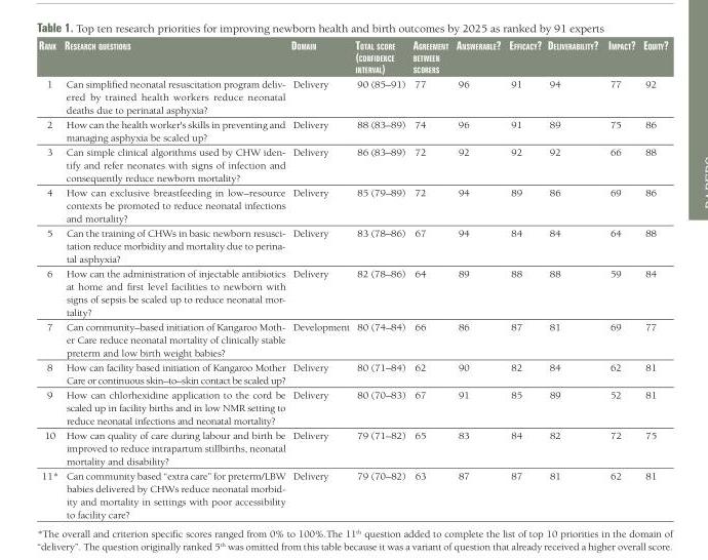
<table><thead><tr><td>Rank</td><td>ReseaRch questions</td><td>Domain</td><td>total scoRe (confiDence inteRval)</td><td>agReement between scoReRs</td><td>answeRable?</td><td>efficacy?</td><td>DeliveRability?</td><td>impact?</td><td>equity?</td></tr></thead><tbody><tr><td>1</td><td>Can simplified neonatal resuscitation program deliv- ered by trained health workers reduce neonatal deaths due to perinatal asphyxia?</td><td>Delivery</td><td>90 (85–91)</td><td>77</td><td>96</td><td>91</td><td>94</td><td>77</td><td>92</td></tr><tr><td>2</td><td>How can the health worker&#x27;s skills in preventing and managing asphyxia be scaled up?</td><td>Delivery</td><td>88 (83–89)</td><td>74</td><td>96</td><td>91</td><td>89</td><td>75</td><td>86</td></tr><tr><td>3</td><td>Can simple clinical algorithms used by CHW iden- tify and refer neonates with signs of infection and consequently reduce newborn mortality?</td><td>Delivery</td><td>86 (83–89)</td><td>72</td><td>92</td><td>92</td><td>92</td><td>66</td><td>88</td></tr><tr><td>4</td><td>How can exclusive breastfeeding in low–resource contexts be promoted to reduce neonatal infections and mortality?</td><td>Delivery</td><td>85 (79–89)</td><td>72</td><td>94</td><td>89</td><td>86</td><td>69</td><td>86</td></tr><tr><td>5</td><td>Can the training of CHWs in basic newborn resusci- tation reduce morbidity and mortality due to perina- tal asphyxia?</td><td>Delivery</td><td>83 (78–86)</td><td>67</td><td>94</td><td>84</td><td>84</td><td>64</td><td>88</td></tr><tr><td>6</td><td>How can the administration of injectable antibiotics at home and first level facilities to newborn with signs of sepsis be scaled up to reduce neonatal mor- tality?</td><td>Delivery</td><td>82 (78–86)</td><td>64</td><td>89</td><td>88</td><td>88</td><td>59</td><td>84</td></tr><tr><td>7</td><td>Can community–based initiation of Kangaroo Moth- er Care reduce neonatal mortality of clinically stable preterm and low birth weight babies?</td><td>Development</td><td>80 (74–84)</td><td>66</td><td>86</td><td>87</td><td>81</td><td>69</td><td>77</td></tr><tr><td>8</td><td>How can facility based initiation of Kangaroo Mother Care or continuous skin–to–skin contact be scaled up?</td><td>Delivery</td><td>80 (71–84)</td><td>62</td><td>90</td><td>82</td><td>84</td><td>62</td><td>81</td></tr><tr><td>9</td><td>How can chlorhexidine application to the cord be scaled up in facility births and in low NMR setting to reduce neonatal infections and neonatal mortality?</td><td>Delivery</td><td>80 (70–83)</td><td>67</td><td>91</td><td>85</td><td>89</td><td>52</td><td>81</td></tr><tr><td>10</td><td>How can quality of care during labour and birth be improved to reduce intrapartum stillbirths, neonatal mortality and disability?</td><td>Delivery</td><td>79 (71–82)</td><td>65</td><td>83</td><td>84</td><td>82</td><td>72</td><td>75</td></tr><tr><td>11*</td><td>Can community based “extra care” for preterm/LBW babies delivered by CHWs reduce neonatal morbid- ity and mortality in settings with poor accessibility to facility care?</td><td>Delivery</td><td>79 (70–82)</td><td>63</td><td>87</td><td>87</td><td>81</td><td>62</td><td>81</td></tr></tbody></table>